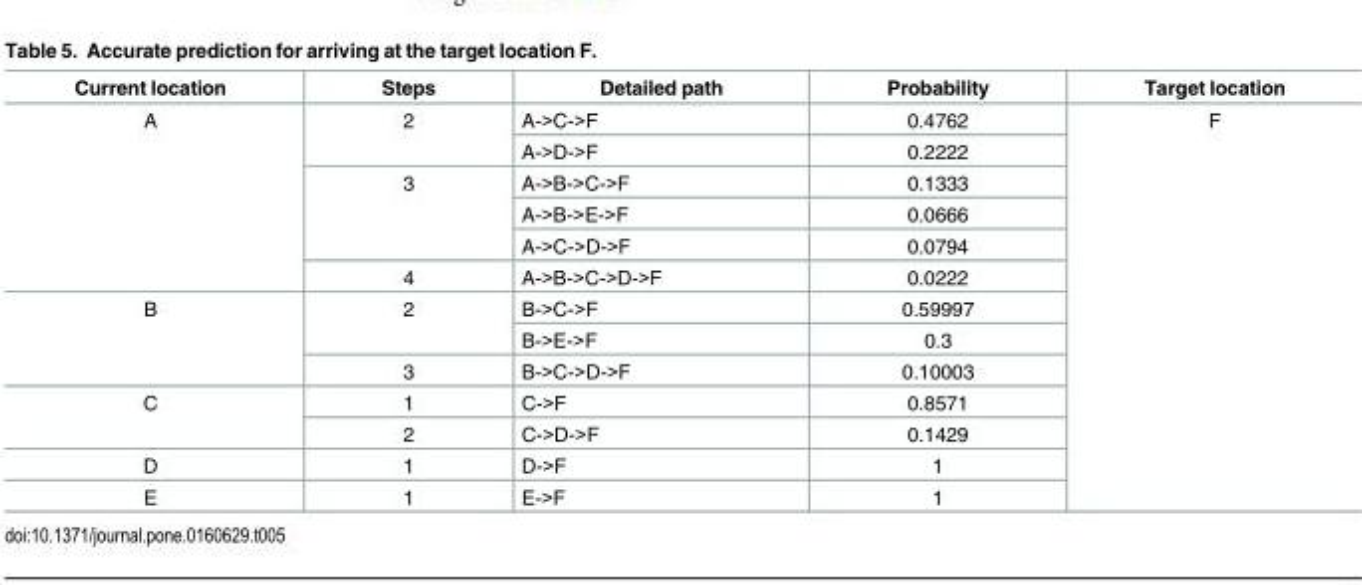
<table><thead><tr><td>Current location</td><td>Steps</td><td>Detailed path</td><td>Probability</td><td>Target location</td></tr></thead><tbody><tr><td rowspan="6">A</td><td rowspan="2">2</td><td>A-&gt;C-&gt;F</td><td>0.4762</td><td rowspan="13">F</td></tr><tr><td>A-&gt;D-&gt;F</td><td>0.2222</td></tr><tr><td rowspan="3">3</td><td>A-&gt;B-&gt;C-&gt;F</td><td>0.1333</td></tr><tr><td>A-&gt;B-&gt;E-&gt;F</td><td>0.0666</td></tr><tr><td>A-&gt;C-&gt;D-&gt;F</td><td>0.0794</td></tr><tr><td>4</td><td>A-&gt;B-&gt;C-&gt;D-&gt;F</td><td>0.0222</td></tr><tr><td rowspan="3">B</td><td rowspan="2">2</td><td>B-&gt;C-&gt;F</td><td>0.59997</td></tr><tr><td>B-&gt;E-&gt;F</td><td>0.3</td></tr><tr><td>3</td><td>B-&gt;C-&gt;D-&gt;F</td><td>0.10003</td></tr><tr><td rowspan="2">C</td><td>1</td><td>C-&gt;F</td><td>0.8571</td></tr><tr><td>2</td><td>C-&gt;D-&gt;F</td><td>0.1429</td></tr><tr><td>D</td><td>1</td><td>D-&gt;F</td><td>1</td></tr><tr><td>E</td><td>1</td><td>E-&gt;F</td><td>1</td></tr></tbody></table>